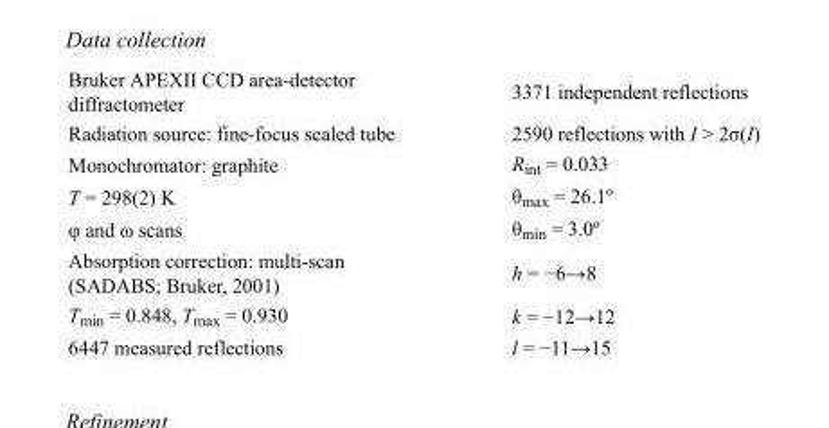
<table><tbody><tr><td>Bruker APEXII CCD area-detector diffractometer</td><td>3371 independent reflections</td></tr><tr><td>Radiation source: fine-focus sealed tube</td><td>2590 reflections with I &gt; 2σ(I)</td></tr><tr><td>Monochromator: graphite</td><td>Rint = 0.033</td></tr><tr><td>T = 298(2) K</td><td>θmax = 26.1º</td></tr><tr><td>φ and ω scans</td><td>θmin = 3.0º</td></tr><tr><td>Absorption correction: multi-scan (SADABS; Bruker, 2001)</td><td>h = −6→8</td></tr><tr><td>Tmin = 0.848, Tmax = 0.930</td><td>k = −12→12</td></tr><tr><td>6447 measured reflections</td><td>l = −11→15</td></tr></tbody></table>